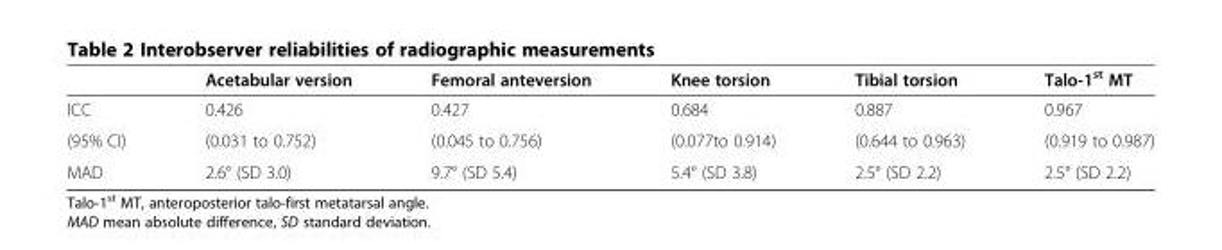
<table><thead><tr><td></td><td>Acetabular version</td><td>Femoral anteversion</td><td>Knee torsion</td><td>Tibial torsion</td><td>Talo-1<sup>st</sup> MT</td></tr></thead><tbody><tr><td>ICC</td><td>0.426</td><td>0.427</td><td>0.684</td><td>0.887</td><td>0.967</td></tr><tr><td>(95% CI)</td><td>(0.031 to 0.752)</td><td>(0.045 to 0.756)</td><td>(0.077to 0.914)</td><td>(0.644 to 0.963)</td><td>(0.919 to 0.987)</td></tr><tr><td>MAD</td><td>2.6° (SD 3.0)</td><td>9.7° (SD 5.4)</td><td>5.4° (SD 3.8)</td><td>2.5° (SD 2.2)</td><td>2.5° (SD 2.2)</td></tr></tbody></table>